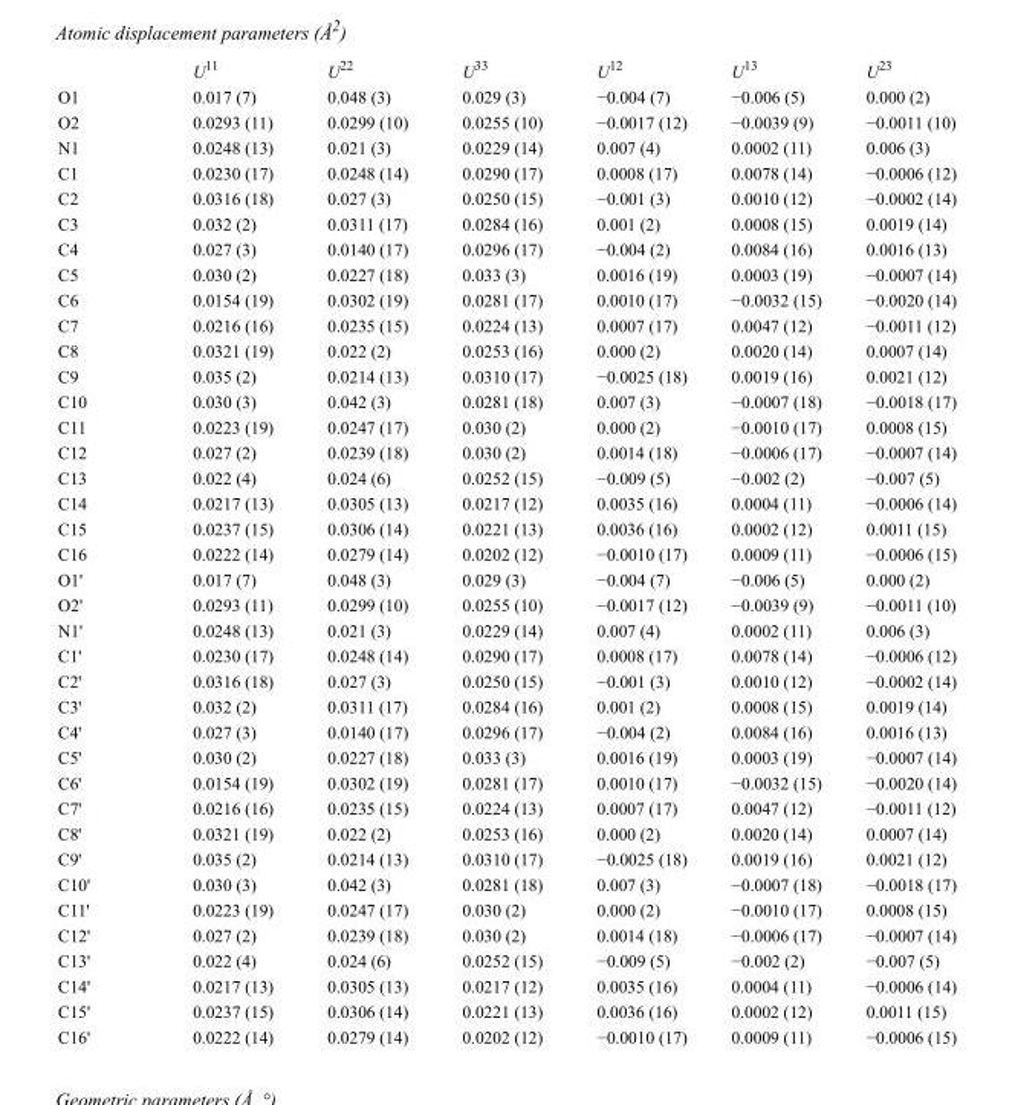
<table><thead><tr><td></td><td>U<sup>11</sup></td><td>U<sup>22</sup></td><td>U<sup>33</sup></td><td>U<sup>12</sup></td><td>U<sup>13</sup></td><td>U<sup>23</sup></td></tr></thead><tbody><tr><td>O1</td><td>0.017 (7)</td><td>0.048 (3)</td><td>0.029 (3)</td><td>−0.004 (7)</td><td>−0.006 (5)</td><td>0.000 (2)</td></tr><tr><td>O2</td><td>0.0293 (11)</td><td>0.0299 (10)</td><td>0.0255 (10)</td><td>−0.0017 (12)</td><td>−0.0039 (9)</td><td>−0.0011 (10)</td></tr><tr><td>N1</td><td>0.0248 (13)</td><td>0.021 (3)</td><td>0.0229 (14)</td><td>0.007 (4)</td><td>0.0002 (11)</td><td>0.006 (3)</td></tr><tr><td>C1</td><td>0.0230 (17)</td><td>0.0248 (14)</td><td>0.0290 (17)</td><td>0.0008 (17)</td><td>0.0078 (14)</td><td>−0.0006 (12)</td></tr><tr><td>C2</td><td>0.0316 (18)</td><td>0.027 (3)</td><td>0.0250 (15)</td><td>−0.001 (3)</td><td>0.0010 (12)</td><td>−0.0002 (14)</td></tr><tr><td>C3</td><td>0.032 (2)</td><td>0.0311 (17)</td><td>0.0284 (16)</td><td>0.001 (2)</td><td>0.0008 (15)</td><td>0.0019 (14)</td></tr><tr><td>C4</td><td>0.027 (3)</td><td>0.0140 (17)</td><td>0.0296 (17)</td><td>−0.004 (2)</td><td>0.0084 (16)</td><td>0.0016 (13)</td></tr><tr><td>C5</td><td>0.030 (2)</td><td>0.0227 (18)</td><td>0.033 (3)</td><td>0.0016 (19)</td><td>0.0003 (19)</td><td>−0.0007 (14)</td></tr><tr><td>C6</td><td>0.0154 (19)</td><td>0.0302 (19)</td><td>0.0281 (17)</td><td>0.0010 (17)</td><td>−0.0032 (15)</td><td>−0.0020 (14)</td></tr><tr><td>C7</td><td>0.0216 (16)</td><td>0.0235 (15)</td><td>0.0224 (13)</td><td>0.0007 (17)</td><td>0.0047 (12)</td><td>−0.0011 (12)</td></tr><tr><td>C8</td><td>0.0321 (19)</td><td>0.022 (2)</td><td>0.0253 (16)</td><td>0.000 (2)</td><td>0.0020 (14)</td><td>0.0007 (14)</td></tr><tr><td>C9</td><td>0.035 (2)</td><td>0.0214 (13)</td><td>0.0310 (17)</td><td>−0.0025 (18)</td><td>0.0019 (16)</td><td>0.0021 (12)</td></tr><tr><td>C10</td><td>0.030 (3)</td><td>0.042 (3)</td><td>0.0281 (18)</td><td>0.007 (3)</td><td>−0.0007 (18)</td><td>−0.0018 (17)</td></tr><tr><td>C11</td><td>0.0223 (19)</td><td>0.0247 (17)</td><td>0.030 (2)</td><td>0.000 (2)</td><td>−0.0010 (17)</td><td>0.0008 (15)</td></tr><tr><td>C12</td><td>0.027 (2)</td><td>0.0239 (18)</td><td>0.030 (2)</td><td>0.0014 (18)</td><td>−0.0006 (17)</td><td>−0.0007 (14)</td></tr><tr><td>C13</td><td>0.022 (4)</td><td>0.024 (6)</td><td>0.0252 (15)</td><td>−0.009 (5)</td><td>−0.002 (2)</td><td>−0.007 (5)</td></tr><tr><td>C14</td><td>0.0217 (13)</td><td>0.0305 (13)</td><td>0.0217 (12)</td><td>0.0035 (16)</td><td>0.0004 (11)</td><td>−0.0006 (14)</td></tr><tr><td>C15</td><td>0.0237 (15)</td><td>0.0306 (14)</td><td>0.0221 (13)</td><td>0.0036 (16)</td><td>0.0002 (12)</td><td>0.0011 (15)</td></tr><tr><td>C16</td><td>0.0222 (14)</td><td>0.0279 (14)</td><td>0.0202 (12)</td><td>−0.0010 (17)</td><td>0.0009 (11)</td><td>−0.0006 (15)</td></tr><tr><td>O1&#x27;</td><td>0.017 (7)</td><td>0.048 (3)</td><td>0.029 (3)</td><td>−0.004 (7)</td><td>−0.006 (5)</td><td>0.000 (2)</td></tr><tr><td>O2&#x27;</td><td>0.0293 (11)</td><td>0.0299 (10)</td><td>0.0255 (10)</td><td>−0.0017 (12)</td><td>−0.0039 (9)</td><td>−0.0011 (10)</td></tr><tr><td>N1&#x27;</td><td>0.0248 (13)</td><td>0.021 (3)</td><td>0.0229 (14)</td><td>0.007 (4)</td><td>0.0002 (11)</td><td>0.006 (3)</td></tr><tr><td>C1&#x27;</td><td>0.0230 (17)</td><td>0.0248 (14)</td><td>0.0290 (17)</td><td>0.0008 (17)</td><td>0.0078 (14)</td><td>−0.0006 (12)</td></tr><tr><td>C2&#x27;</td><td>0.0316 (18)</td><td>0.027 (3)</td><td>0.0250 (15)</td><td>−0.001 (3)</td><td>0.0010 (12)</td><td>−0.0002 (14)</td></tr><tr><td>C3&#x27;</td><td>0.032 (2)</td><td>0.0311 (17)</td><td>0.0284 (16)</td><td>0.001 (2)</td><td>0.0008 (15)</td><td>0.0019 (14)</td></tr><tr><td>C4&#x27;</td><td>0.027 (3)</td><td>0.0140 (17)</td><td>0.0296 (17)</td><td>−0.004 (2)</td><td>0.0084 (16)</td><td>0.0016 (13)</td></tr><tr><td>C5&#x27;</td><td>0.030 (2)</td><td>0.0227 (18)</td><td>0.033 (3)</td><td>0.0016 (19)</td><td>0.0003 (19)</td><td>−0.0007 (14)</td></tr><tr><td>C6&#x27;</td><td>0.0154 (19)</td><td>0.0302 (19)</td><td>0.0281 (17)</td><td>0.0010 (17)</td><td>−0.0032 (15)</td><td>−0.0020 (14)</td></tr><tr><td>C7&#x27;</td><td>0.0216 (16)</td><td>0.0235 (15)</td><td>0.0224 (13)</td><td>0.0007 (17)</td><td>0.0047 (12)</td><td>−0.0011 (12)</td></tr><tr><td>C8&#x27;</td><td>0.0321 (19)</td><td>0.022 (2)</td><td>0.0253 (16)</td><td>0.000 (2)</td><td>0.0020 (14)</td><td>0.0007 (14)</td></tr><tr><td>C9&#x27;</td><td>0.035 (2)</td><td>0.0214 (13)</td><td>0.0310 (17)</td><td>−0.0025 (18)</td><td>0.0019 (16)</td><td>0.0021 (12)</td></tr><tr><td>C10&#x27;</td><td>0.030 (3)</td><td>0.042 (3)</td><td>0.0281 (18)</td><td>0.007 (3)</td><td>−0.0007 (18)</td><td>−0.0018 (17)</td></tr><tr><td>C11&#x27;</td><td>0.0223 (19)</td><td>0.0247 (17)</td><td>0.030 (2)</td><td>0.000 (2)</td><td>−0.0010 (17)</td><td>0.0008 (15)</td></tr><tr><td>C12&#x27;</td><td>0.027 (2)</td><td>0.0239 (18)</td><td>0.030 (2)</td><td>0.0014 (18)</td><td>−0.0006 (17)</td><td>−0.0007 (14)</td></tr><tr><td>C13&#x27;</td><td>0.022 (4)</td><td>0.024 (6)</td><td>0.0252 (15)</td><td>−0.009 (5)</td><td>−0.002 (2)</td><td>−0.007 (5)</td></tr><tr><td>C14&#x27;</td><td>0.0217 (13)</td><td>0.0305 (13)</td><td>0.0217 (12)</td><td>0.0035 (16)</td><td>0.0004 (11)</td><td>−0.0006 (14)</td></tr><tr><td>C15&#x27;</td><td>0.0237 (15)</td><td>0.0306 (14)</td><td>0.0221 (13)</td><td>0.0036 (16)</td><td>0.0002 (12)</td><td>0.0011 (15)</td></tr><tr><td>C16&#x27;</td><td>0.0222 (14)</td><td>0.0279 (14)</td><td>0.0202 (12)</td><td>−0.0010 (17)</td><td>0.0009 (11)</td><td>−0.0006 (15)</td></tr></tbody></table>